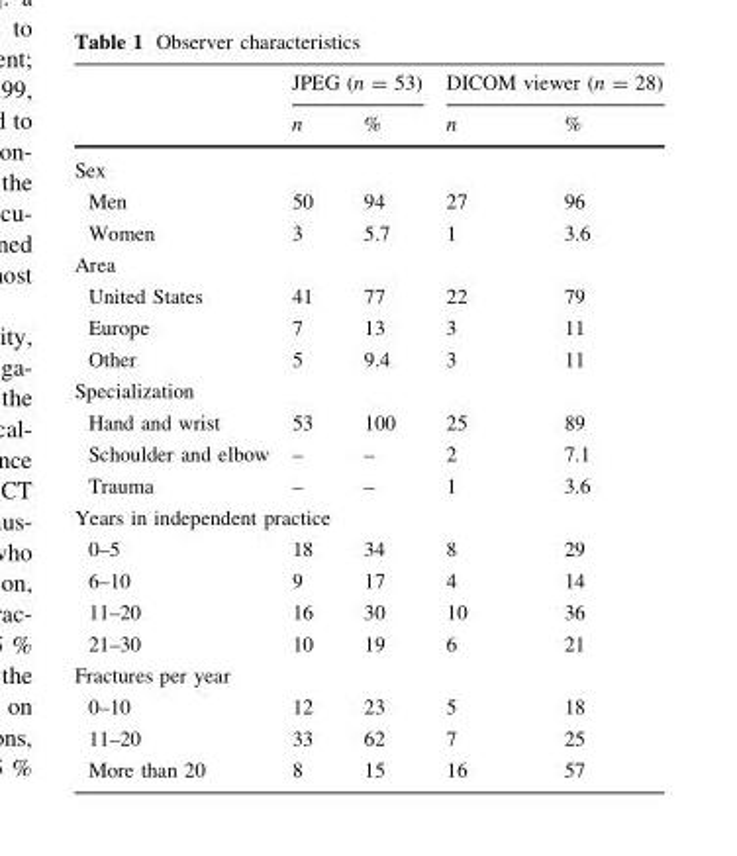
<table><thead><tr><td rowspan="2"></td><td colspan="2">JPEG (n = 53)</td><td colspan="2">DICOM viewer (n = 28)</td></tr><tr><td>n</td><td>%</td><td>n</td><td>%</td></tr></thead><tbody><tr><td colspan="5">Sex</td></tr><tr><td>Men</td><td>50</td><td>94</td><td>27</td><td>96</td></tr><tr><td>Women</td><td>3</td><td>5.7</td><td>1</td><td>3.6</td></tr><tr><td colspan="5">Area</td></tr><tr><td>United States</td><td>41</td><td>77</td><td>22</td><td>79</td></tr><tr><td>Europe</td><td>7</td><td>13</td><td>3</td><td>11</td></tr><tr><td>Other</td><td>5</td><td>9.4</td><td>3</td><td>11</td></tr><tr><td colspan="5">Specialization</td></tr><tr><td>Hand and wrist</td><td>53</td><td>100</td><td>25</td><td>89</td></tr><tr><td>Schoulder and elbow</td><td>–</td><td>–</td><td>2</td><td>7.1</td></tr><tr><td>Trauma</td><td>–</td><td>–</td><td>1</td><td>3.6</td></tr><tr><td colspan="5">Years in independent practice</td></tr><tr><td>0–5</td><td>18</td><td>34</td><td>8</td><td>29</td></tr><tr><td>6–10</td><td>9</td><td>17</td><td>4</td><td>14</td></tr><tr><td>11–20</td><td>16</td><td>30</td><td>10</td><td>36</td></tr><tr><td>21–30</td><td>10</td><td>19</td><td>6</td><td>21</td></tr><tr><td colspan="5">Fractures per year</td></tr><tr><td>0–10</td><td>12</td><td>23</td><td>5</td><td>18</td></tr><tr><td>11–20</td><td>33</td><td>62</td><td>7</td><td>25</td></tr><tr><td>More than 20</td><td>8</td><td>15</td><td>16</td><td>57</td></tr></tbody></table>